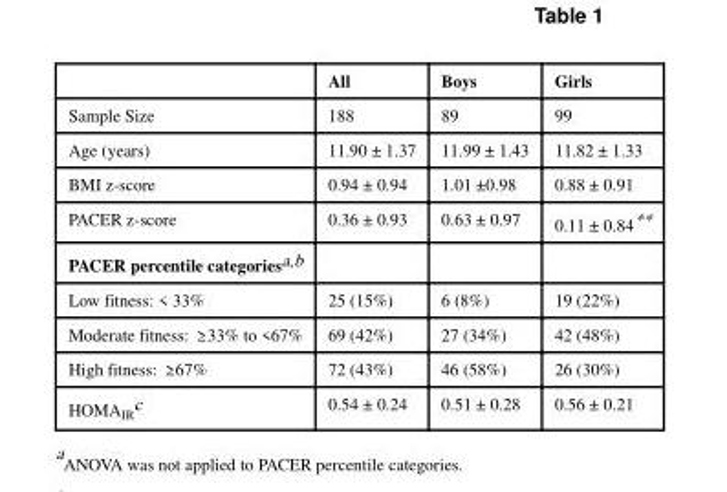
<table><thead><tr><td></td><td>All</td><td>Boys</td><td>Girls</td></tr></thead><tbody><tr><td>Sample Size</td><td>188</td><td>89</td><td>99</td></tr><tr><td>Age (years)</td><td>11.90 ± 1.37</td><td>11.99 ± 1.43</td><td>11.82 ± 1.33</td></tr><tr><td>BMI z-score</td><td>0.94 ± 0.94</td><td>1.01 ±0.98</td><td>0.88 ± 0.91</td></tr><tr><td>PACER z-score</td><td>0.36 ± 0.93</td><td>0.63 ± 0.97</td><td>0.11 ± 0.84**</td></tr><tr><td colspan="4">PACER percentile categories<sup>a</sup>,<sup>b</sup></td></tr><tr><td>Low fitness: &lt; 33%</td><td>25 (15%)</td><td>6 (8%)</td><td>19 (22%)</td></tr><tr><td>Moderate fitness: ≥ 33% to &lt;67%</td><td>69 (42%)</td><td>27 (34%)</td><td>42 (48%)</td></tr><tr><td>High fitness: ≥ 67%</td><td>72 (43%)</td><td>46 (58%)</td><td>26 (30%)</td></tr><tr><td>HOMA<sub>IR</sub><sup>c</sup></td><td>0.54 ± 0.24</td><td>0.51 ± 0.28</td><td>0.56 ± 0.21</td></tr></tbody></table>